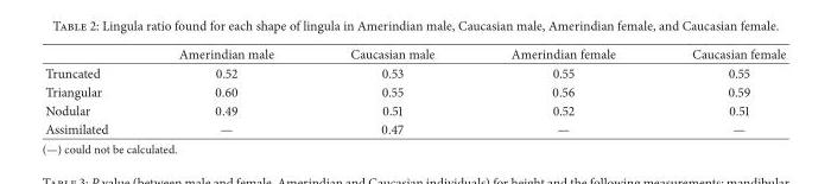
<table><thead><tr><td></td><td>Amerindian male</td><td>Caucasian male</td><td>Amerindian female</td><td>Caucasian female</td></tr></thead><tbody><tr><td>Truncated</td><td>0.52</td><td>0.53</td><td>0.55</td><td>0.55</td></tr><tr><td>Triangular</td><td>0.60</td><td>0.55</td><td>0.56</td><td>0.59</td></tr><tr><td>Nodular</td><td>0.49</td><td>0.51</td><td>0.52</td><td>0.51</td></tr><tr><td>Assimilated</td><td>—</td><td>0.47</td><td>—</td><td>—</td></tr></tbody></table>